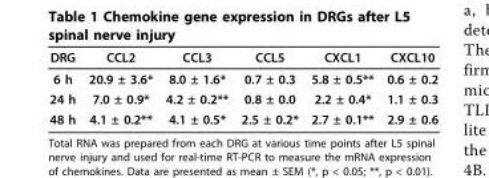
<table><thead><tr><td>DRG</td><td>CCL2</td><td>CCL3</td><td>CCL5</td><td>CXCL1</td><td>CXCL10</td></tr></thead><tbody><tr><td>6 h</td><td>20.9 ± 3.6*</td><td>8.0 ± 1.6*</td><td>0.7 ± 0.3</td><td>5.8 ± 0.5**</td><td>0.6 ± 0.2</td></tr><tr><td>24 h</td><td>7.0 ± 0.9*</td><td>4.2 ± 0.2**</td><td>0.8 ± 0.0</td><td>2.2 ± 0.4*</td><td>1.1 ± 0.3</td></tr><tr><td>48 h</td><td>4.1 ± 0.2**</td><td>4.1 ± 0.5*</td><td>2.5 ± 0.2*</td><td>2.7 ± 0.1**</td><td>2.9 ± 0.6</td></tr></tbody></table>